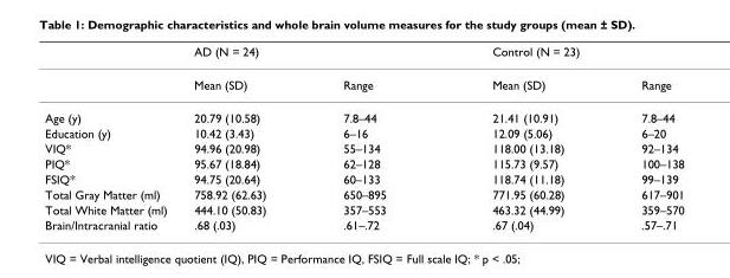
<table><thead><tr><td rowspan="2"></td><td colspan="2">AD (N = 24)</td><td colspan="2">Control (N = 23)</td></tr><tr><td>Mean (SD)</td><td>Range</td><td>Mean (SD)</td><td>Range</td></tr></thead><tbody><tr><td>Age (y)</td><td>20.79 (10.58)</td><td>7.8–44</td><td>21.41 (10.91)</td><td>7.8–44</td></tr><tr><td>Education (y)</td><td>10.42 (3.43)</td><td>6–16</td><td>12.09 (5.06)</td><td>6–20</td></tr><tr><td>VIQ*</td><td>94.96 (20.98)</td><td>55–134</td><td>118.00 (13.18)</td><td>92–134</td></tr><tr><td>PIQ*</td><td>95.67 (18.84)</td><td>62–128</td><td>115.73 (9.57)</td><td>100–138</td></tr><tr><td>FSIQ*</td><td>94.75 (20.64)</td><td>60–133</td><td>118.74 (11.18)</td><td>99–139</td></tr><tr><td>Total Gray Matter (ml)</td><td>758.92 (62.63)</td><td>650–895</td><td>771.95 (60.28)</td><td>617–901</td></tr><tr><td>Total White Matter (ml)</td><td>444.10 (50.83)</td><td>357–553</td><td>463.32 (44.99)</td><td>359–570</td></tr><tr><td>Brain/Intracranial ratio</td><td>.68 (.03)</td><td>.61–.72</td><td>.67 (.04)</td><td>.57–.71</td></tr></tbody></table>